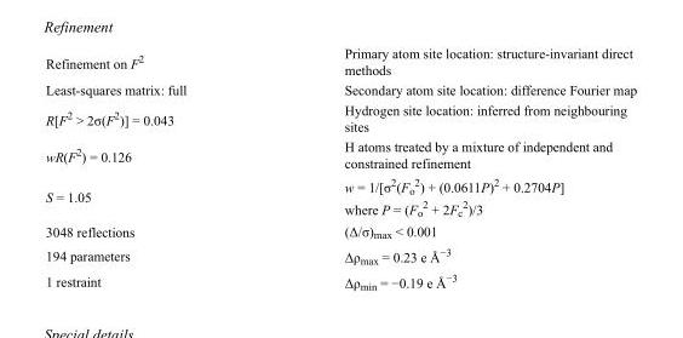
<table><tbody><tr><td>Refinement on F<sup>2</sup></td><td>Primary atom site location: structure-invariant direct methods</td></tr><tr><td>Least-squares matrix: full</td><td>Secondary atom site location: difference Fourier map</td></tr><tr><td>R[F<sup>2</sup> &gt; 2σ(F<sup>2</sup>)] = 0.043</td><td>Hydrogen site location: inferred from neighbouring sites</td></tr><tr><td>wR(F<sup>2</sup>) = 0.126</td><td>H atoms treated by a mixture of independent and constrained refinement</td></tr><tr><td>S = 1.05</td><td>w = 1/[σ<sup>2</sup>(F<sub>o</sub> <sup>2</sup>) + (0.0611P)<sup>2</sup> + 0.2704P] where P = (F<sub>o</sub> <sup>2</sup> + 2F<sub>c</sub> <sup>2</sup>)/3</td></tr><tr><td>3048 reflections</td><td>(Δ/σ)<sub>max</sub> &lt; 0.001</td></tr><tr><td>194 parameters</td><td>Δρ<sub>max</sub> = 0.23 e Å<sup>−3</sup></td></tr><tr><td>1 restraint</td><td>Δρ<sub>min</sub> = −0.19 e Å<sup>−3</sup></td></tr></tbody></table>